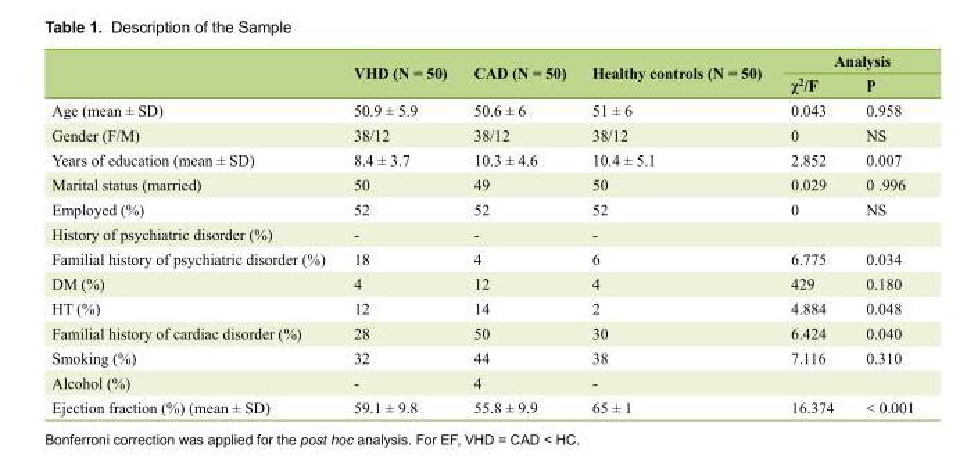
<table><thead><tr><td rowspan="2"></td><td rowspan="2">VHD (N = 50)</td><td rowspan="2">CAD (N = 50)</td><td rowspan="2">Healthy controls (N = 50)</td><td colspan="2">Analysis</td></tr><tr><td>χ<sup>2</sup>/F</td><td>P</td></tr></thead><tbody><tr><td>Age (mean ± SD)</td><td>50.9 ± 5.9</td><td>50.6 ± 6</td><td>51 ± 6</td><td>0.043</td><td>0.958</td></tr><tr><td>Gender (F/M)</td><td>38/12</td><td>38/12</td><td>38/12</td><td>0</td><td>NS</td></tr><tr><td>Years of education (mean ± SD)</td><td>8.4 ± 3.7</td><td>10.3 ± 4.6</td><td>10.4 ± 5.1</td><td>2.852</td><td>0.007</td></tr><tr><td>Marital status (married)</td><td>50</td><td>49</td><td>50</td><td>0.029</td><td>0 .996</td></tr><tr><td>Employed (%)</td><td>52</td><td>52</td><td>52</td><td>0</td><td>NS</td></tr><tr><td>History of psychiatric disorder (%)</td><td>-</td><td>-</td><td>-</td><td></td><td></td></tr><tr><td>Familial history of psychiatric disorder (%)</td><td>18</td><td>4</td><td>6</td><td>6.775</td><td>0.034</td></tr><tr><td>DM (%)</td><td>4</td><td>12</td><td>4</td><td>429</td><td>0.180</td></tr><tr><td>HT (%)</td><td>12</td><td>14</td><td>2</td><td>4.884</td><td>0.048</td></tr><tr><td>Familial history of cardiac disorder (%)</td><td>28</td><td>50</td><td>30</td><td>6.424</td><td>0.040</td></tr><tr><td>Smoking (%)</td><td>32</td><td>44</td><td>38</td><td>7.116</td><td>0.310</td></tr><tr><td>Alcohol (%)</td><td>-</td><td>4</td><td>-</td><td></td><td></td></tr><tr><td>Ejection fraction (%) (mean ± SD)</td><td>59.1 ± 9.8</td><td>55.8 ± 9.9</td><td>65 ± 1</td><td>16.374</td><td>&lt; 0.001</td></tr></tbody></table>